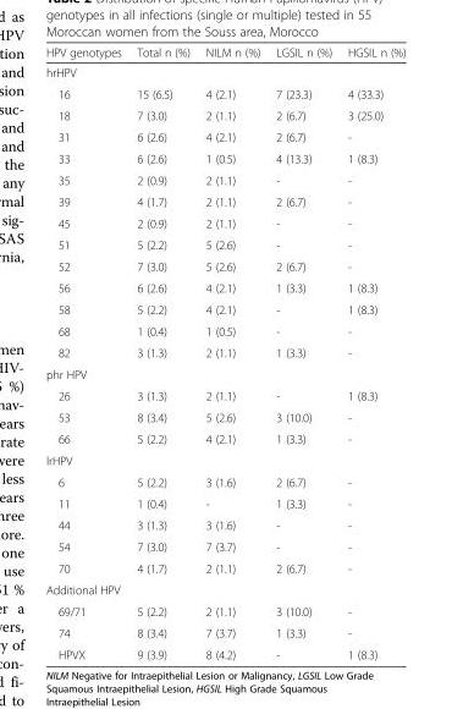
<table><thead><tr><td>HPV genotypes</td><td>Total n (%)</td><td>NILM n (%)</td><td>LGSIL n (%)</td><td>HGSIL n (%)</td></tr></thead><tbody><tr><td colspan="5">hrHPV</td></tr><tr><td>16</td><td>15 (6.5)</td><td>4 (2.1)</td><td>7 (23.3)</td><td>4 (33.3)</td></tr><tr><td>18</td><td>7 (3.0)</td><td>2 (1.1)</td><td>2 (6.7)</td><td>3 (25.0)</td></tr><tr><td>31</td><td>6 (2.6)</td><td>4 (2.1)</td><td>2 (6.7)</td><td>-</td></tr><tr><td>33</td><td>6 (2.6)</td><td>1 (0.5)</td><td>4 (13.3)</td><td>1 (8.3)</td></tr><tr><td>35</td><td>2 (0.9)</td><td>2 (1.1)</td><td>-</td><td>-</td></tr><tr><td>39</td><td>4 (1.7)</td><td>2 (1.1)</td><td>2 (6.7)</td><td>-</td></tr><tr><td>45</td><td>2 (0.9)</td><td>2 (1.1)</td><td>-</td><td>-</td></tr><tr><td>51</td><td>5 (2.2)</td><td>5 (2.6)</td><td>-</td><td>-</td></tr><tr><td>52</td><td>7 (3.0)</td><td>5 (2.6)</td><td>2 (6.7)</td><td>-</td></tr><tr><td>56</td><td>6 (2.6)</td><td>4 (2.1)</td><td>1 (3.3)</td><td>1 (8.3)</td></tr><tr><td>58</td><td>5 (2.2)</td><td>4 (2.1)</td><td>-</td><td>1 (8.3)</td></tr><tr><td>68</td><td>1 (0.4)</td><td>1 (0.5)</td><td>-</td><td>-</td></tr><tr><td>82</td><td>3 (1.3)</td><td>2 (1.1)</td><td>1 (3.3)</td><td>-</td></tr><tr><td colspan="5">phr HPV</td></tr><tr><td>26</td><td>3 (1.3)</td><td>2 (1.1)</td><td>-</td><td>1 (8.3)</td></tr><tr><td>53</td><td>8 (3.4)</td><td>5 (2.6)</td><td>3 (10.0)</td><td>-</td></tr><tr><td>66</td><td>5 (2.2)</td><td>4 (2.1)</td><td>1 (3.3)</td><td>-</td></tr><tr><td colspan="5">lrHPV</td></tr><tr><td>6</td><td>5 (2.2)</td><td>3 (1.6)</td><td>2 (6.7)</td><td>-</td></tr><tr><td>11</td><td>1 (0.4)</td><td>-</td><td>1 (3.3)</td><td>-</td></tr><tr><td>44</td><td>3 (1.3)</td><td>3 (1.6)</td><td>-</td><td>-</td></tr><tr><td>54</td><td>7 (3.0)</td><td>7 (3.7)</td><td>-</td><td>-</td></tr><tr><td>70</td><td>4 (1.7)</td><td>2 (1.1)</td><td>2 (6.7)</td><td>-</td></tr><tr><td colspan="5">Additional HPV</td></tr><tr><td>69/71</td><td>5 (2.2)</td><td>2 (1.1)</td><td>3 (10.0)</td><td>-</td></tr><tr><td>74</td><td>8 (3.4)</td><td>7 (3.7)</td><td>1 (3.3)</td><td>-</td></tr><tr><td>HPVX</td><td>9 (3.9)</td><td>8 (4.2)</td><td>-</td><td>1 (8.3)</td></tr></tbody></table>